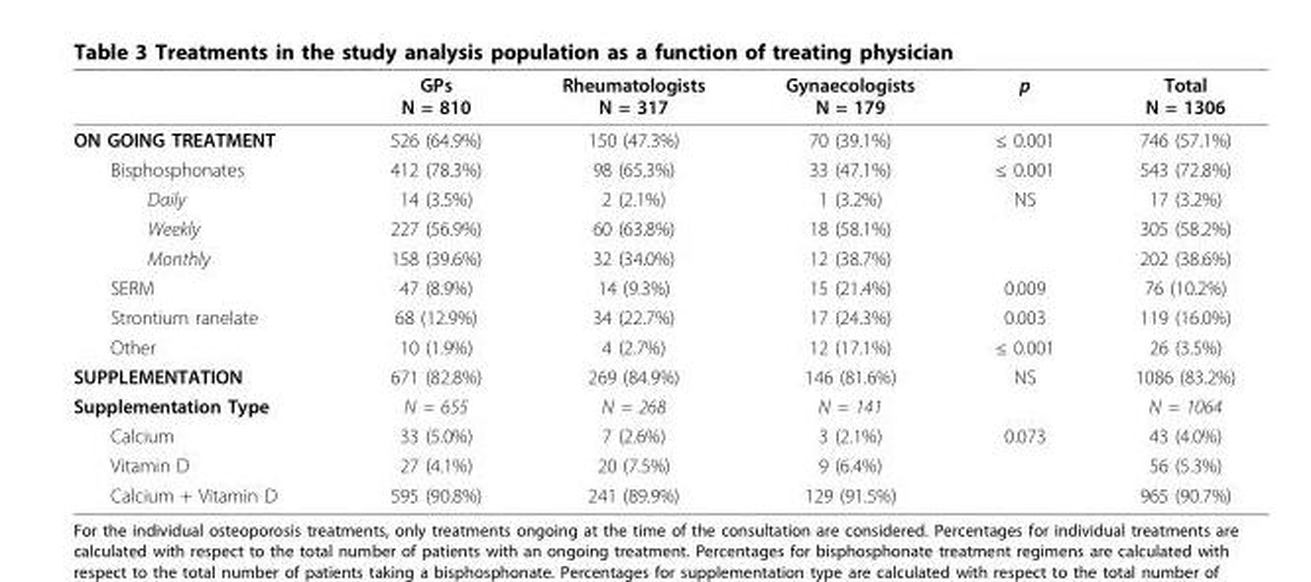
<table><thead><tr><td></td><td>GPs N = 810</td><td>Rheumatologists N = 317</td><td>Gynaecologists N = 179</td><td>p</td><td>Total N = 1306</td></tr></thead><tbody><tr><td>ON GOING TREATMENT</td><td>526 (64.9%)</td><td>150 (47.3%)</td><td>70 (39.1%)</td><td>≤ 0.001</td><td>746 (57.1%)</td></tr><tr><td>Bisphosphonates</td><td>412 (78.3%)</td><td>98 (65.3%)</td><td>33 (47.1%)</td><td>≤ 0.001</td><td>543 (72.8%)</td></tr><tr><td>Daily</td><td>14 (3.5%)</td><td>2 (2.1%)</td><td>1 (3.2%)</td><td>NS</td><td>17 (3.2%)</td></tr><tr><td>Weekly</td><td>227 (56.9%)</td><td>60 (63.8%)</td><td>18 (58.1%)</td><td></td><td>305 (58.2%)</td></tr><tr><td>Monthly</td><td>158 (39.6%)</td><td>32 (34.0%)</td><td>12 (38.7%)</td><td></td><td>202 (38.6%)</td></tr><tr><td>SERM</td><td>47 (8.9%)</td><td>14 (9.3%)</td><td>15 (21.4%)</td><td>0.009</td><td>76 (10.2%)</td></tr><tr><td>Strontium ranelate</td><td>68 (12.9%)</td><td>34 (22.7%)</td><td>17 (24.3%)</td><td>0.003</td><td>119 (16.0%)</td></tr><tr><td>Other</td><td>10 (1.9%)</td><td>4 (2.7%)</td><td>12 (17.1%)</td><td>≤ 0.001</td><td>26 (3.5%)</td></tr><tr><td>SUPPLEMENTATION</td><td>671 (82.8%)</td><td>269 (84.9%)</td><td>146 (81.6%)</td><td>NS</td><td>1086 (83.2%)</td></tr><tr><td>Supplementation Type</td><td>N = 655</td><td>N = 268</td><td>N = 141</td><td></td><td>N = 1064</td></tr><tr><td>Calcium</td><td>33 (5.0%)</td><td>7 (2.6%)</td><td>3 (2.1%)</td><td>0.073</td><td>43 (4.0%)</td></tr><tr><td>Vitamin D</td><td>27 (4.1%)</td><td>20 (7.5%)</td><td>9 (6.4%)</td><td></td><td>56 (5.3%)</td></tr><tr><td>Calcium + Vitamin D</td><td>595 (90.8%)</td><td>241 (89.9%)</td><td>129 (91.5%)</td><td></td><td>965 (90.7%)</td></tr></tbody></table>